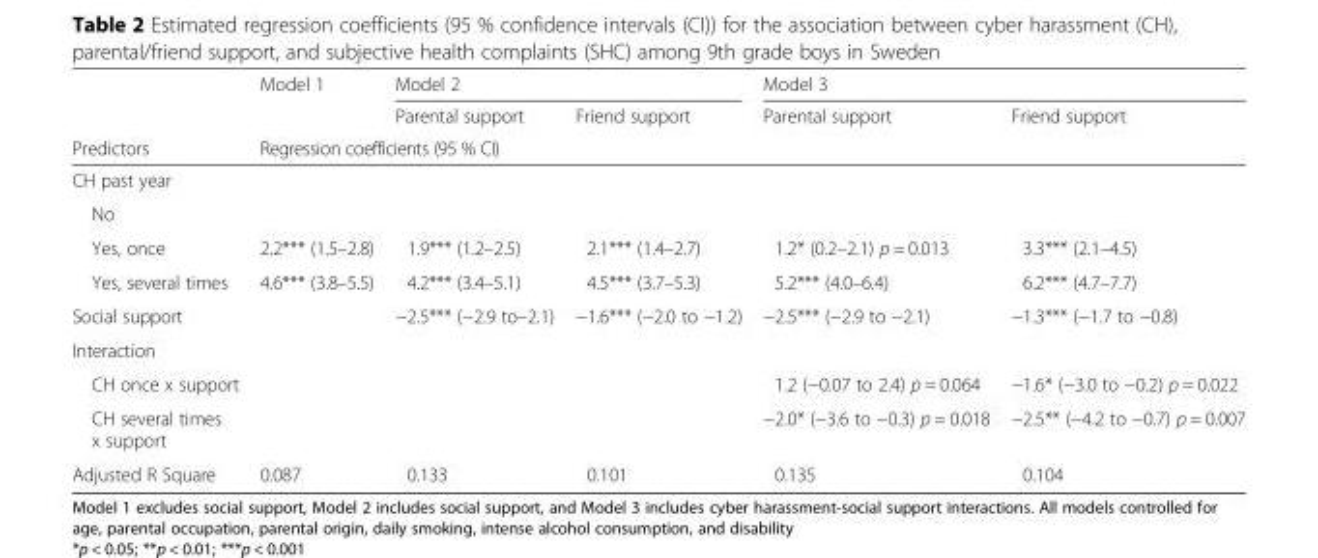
<table><thead><tr><td rowspan="3">Predictors</td><td rowspan="2">Model 1</td><td colspan="2">Model 2</td><td colspan="2">Model 3</td></tr><tr><td>Parental support</td><td>Friend support</td><td>Parental support</td><td>Friend support</td></tr><tr><td colspan="5">Regression coefficients (95 % CI)</td></tr></thead><tbody><tr><td colspan="6">CH past year</td></tr><tr><td colspan="6">No</td></tr><tr><td>Yes, once</td><td>2.2*** (1.5–2.8)</td><td>1.9*** (1.2–2.5)</td><td>2.1*** (1.4–2.7)</td><td>1.2* (0.2–2.1) p = 0.013</td><td>3.3*** (2.1–4.5)</td></tr><tr><td>Yes, several times</td><td>4.6*** (3.8–5.5)</td><td>4.2*** (3.4–5.1)</td><td>4.5*** (3.7–5.3)</td><td>5.2*** (4.0–6.4)</td><td>6.2*** (4.7–7.7)</td></tr><tr><td>Social support</td><td></td><td>−2.5*** (−2.9 to–2.1)</td><td>−1.6*** (−2.0 to −1.2)</td><td>−2.5*** (−2.9 to −2.1)</td><td>−1.3*** (−1.7 to −0.8)</td></tr><tr><td colspan="6">Interaction</td></tr><tr><td>CH once x support</td><td></td><td></td><td></td><td>1.2 (−0.07 to 2.4) p = 0.064</td><td>−1.6* (−3.0 to −0.2) p = 0.022</td></tr><tr><td>CH several times x support</td><td></td><td></td><td></td><td>−2.0* (−3.6 to −0.3) p = 0.018</td><td>−2.5** (−4.2 to −0.7) p = 0.007</td></tr><tr><td>Adjusted R Square</td><td>0.087</td><td>0.133</td><td>0.101</td><td>0.135</td><td>0.104</td></tr></tbody></table>